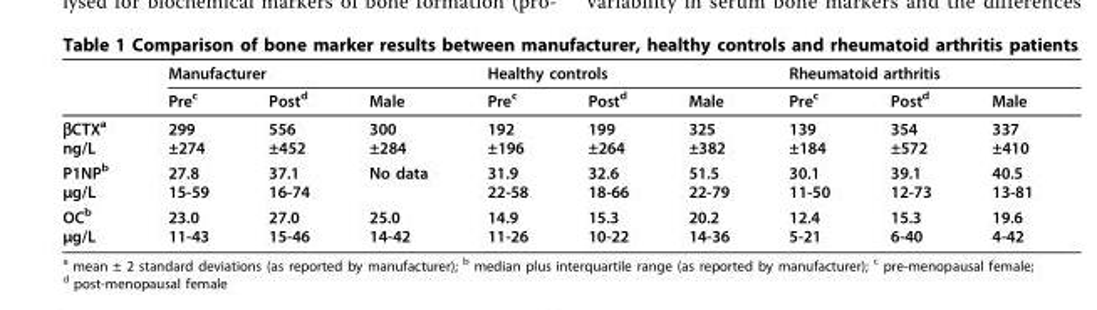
<table><thead><tr><td rowspan="2"></td><td colspan="3">Manufacturer</td><td colspan="3">Healthy controls</td><td colspan="3">Rheumatoid arthritis</td></tr><tr><td>Pre<sup>c</sup></td><td>Post<sup>d</sup></td><td>Male</td><td>Pre<sup>c</sup></td><td>Post<sup>d</sup></td><td>Male</td><td>Pre<sup>c</sup></td><td>Post<sup>d</sup></td><td>Male</td></tr></thead><tbody><tr><td>βCTX<sup>a</sup> ng/L</td><td>299 ±274</td><td>556 ±452</td><td>300 ±284</td><td>192 ±196</td><td>199 ±264</td><td>325 ±382</td><td>139 ±184</td><td>354 ±572</td><td>337 ±410</td></tr><tr><td>P1NP<sup>b</sup> µg/L</td><td>27.8 15-59</td><td>37.1 16-74</td><td>No data</td><td>31.9 22-58</td><td>32.6 18-66</td><td>51.5 22-79</td><td>30.1 11-50</td><td>39.1 12-73</td><td>40.5 13-81</td></tr><tr><td>OC<sup>b</sup> µg/L</td><td>23.0 11-43</td><td>27.0 15-46</td><td>25.0 14-42</td><td>14.9 11-26</td><td>15.3 10-22</td><td>20.2 14-36</td><td>12.4 5-21</td><td>15.3 6-40</td><td>19.6 4-42</td></tr></tbody></table>